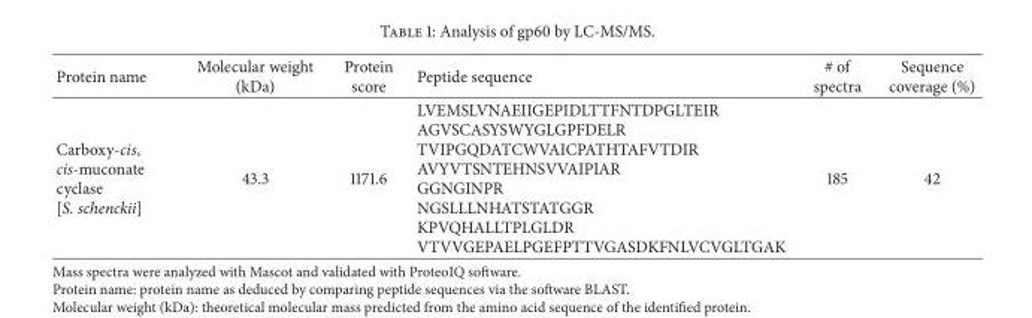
<table><thead><tr><td>Protein name</td><td>Molecular weight (kDa)</td><td>Protein score</td><td>Peptide sequence</td><td># of spectra</td><td>Sequence coverage (%)</td></tr></thead><tbody><tr><td>Carboxy-cis, cis-muconate cyclase [S. schenckii]</td><td>43.3</td><td>1171.6</td><td>LVEMSLVNAEIIGEPIDLTTFNTDPGLTEIR AGVSCASYSWYGLGPFDELR TVIPGQDATCWVAICPATHTAFVTDIR AVYVTSNTEHNSVVAIPIAR GGNGINPR NGSLLLNHATSTATGGR KPVQHALLTPLGLDR VTVVGEPAELPGEFPTTVGASDKFNLVCVGLTGAK</td><td>185</td><td>42</td></tr></tbody></table>